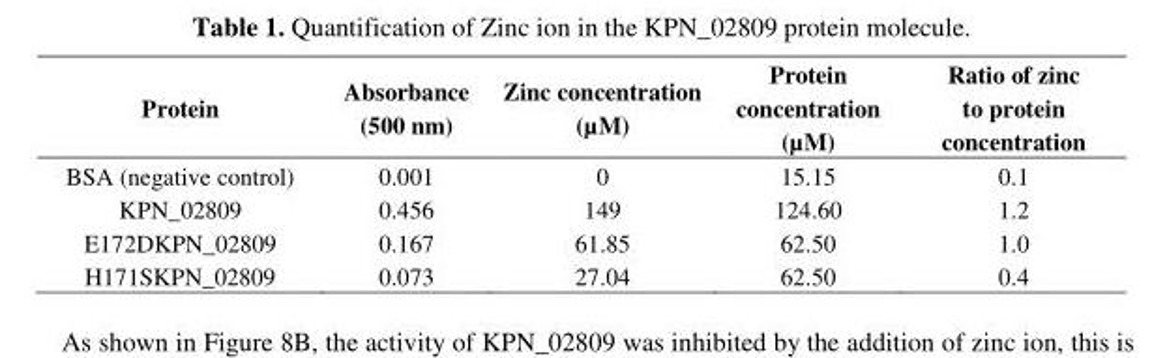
<table><thead><tr><td>Protein</td><td>Absorbance (500 nm)</td><td>Zinc concentration (µM)</td><td>Protein concentration (µM)</td><td>Ratio of zinc to protein concentration</td></tr></thead><tbody><tr><td>BSA (negative control)</td><td>0.001</td><td>0</td><td>15.15</td><td>0.1</td></tr><tr><td>KPN_02809</td><td>0.456</td><td>149</td><td>124.60</td><td>1.2</td></tr><tr><td>E172DKPN_02809</td><td>0.167</td><td>61.85</td><td>62.50</td><td>1.0</td></tr><tr><td>H171SKPN_02809</td><td>0.073</td><td>27.04</td><td>62.50</td><td>0.4</td></tr></tbody></table>